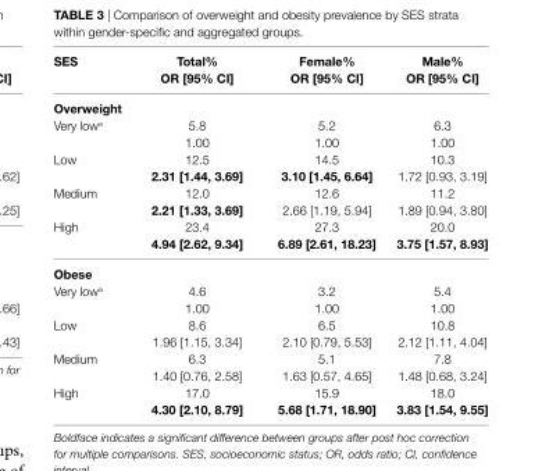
<table><thead><tr><td>ses</td><td>Total% Or [95% ci]</td><td>Female% Or [95% ci]</td><td>Male% Or [95% ci]</td></tr></thead><tbody><tr><td colspan="4">Overweight</td></tr><tr><td>Very low<sup>a</sup></td><td>5.8 1.00</td><td>5.2 1.00</td><td>6.3 1.00</td></tr><tr><td>Low</td><td>12.5 2.31 [1.44, 3.69]</td><td>14.5 3.10 [1.45, 6.64]</td><td>10.3 1.72 [0.93, 3.19]</td></tr><tr><td>Medium</td><td>12.0 2.21 [1.33, 3.69]</td><td>12.6 2.66 [1.19, 5.94]</td><td>11.2 1.89 [0.94, 3.80]</td></tr><tr><td>High</td><td>23.4 4.94 [2.62, 9.34]</td><td>27.3 6.89 [2.61, 18.23]</td><td>20.0 3.75 [1.57, 8.93]</td></tr><tr><td colspan="4">Obese</td></tr><tr><td>Very low<sup>a</sup></td><td>4.6 1.00</td><td>3.2 1.00</td><td>5.4 1.00</td></tr><tr><td>Low</td><td>8.6 1.96 [1.15, 3.34]</td><td>6.5 2.10 [0.79, 5.53]</td><td>10.8 2.12 [1.11, 4.04]</td></tr><tr><td>Medium</td><td>6.3 1.40 [0.76, 2.58]</td><td>5.1 1.63 [0.57, 4.65]</td><td>7.8 1.48 [0.68, 3.24]</td></tr><tr><td>High</td><td>17.0 4.30 [2.10, 8.79]</td><td>15.9 5.68 [1.71, 18.90]</td><td>18.0 3.83 [1.54, 9.55]</td></tr></tbody></table>